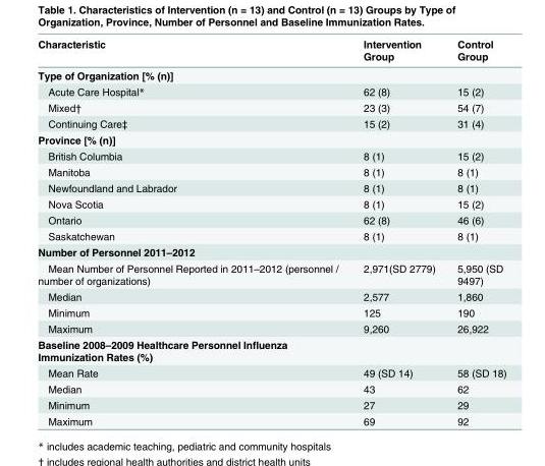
<table><thead><tr><td>Characteristic</td><td>Intervention Group</td><td>Control Group</td></tr></thead><tbody><tr><td colspan="3">Type of Organization [% (n)]</td></tr><tr><td>Acute Care Hospital*</td><td>62 (8)</td><td>15 (2)</td></tr><tr><td>Mixed†</td><td>23 (3)</td><td>54 (7)</td></tr><tr><td>Continuing Care‡</td><td>15 (2)</td><td>31 (4)</td></tr><tr><td colspan="3">Province [% (n)]</td></tr><tr><td>British Columbia</td><td>8 (1)</td><td>15 (2)</td></tr><tr><td>Manitoba</td><td>8 (1)</td><td>8 (1)</td></tr><tr><td>Newfoundland and Labrador</td><td>8 (1)</td><td>8 (1)</td></tr><tr><td>Nova Scotia</td><td>8 (1)</td><td>15 (2)</td></tr><tr><td>Ontario</td><td>62 (8)</td><td>46 (6)</td></tr><tr><td>Saskatchewan</td><td>8 (1)</td><td>8 (1)</td></tr><tr><td colspan="3">Number of Personnel 2011–2012</td></tr><tr><td>Mean Number of Personnel Reported in 2011–2012 (personnel / number of organizations)</td><td>2,971(SD 2779)</td><td>5,950 (SD 9497)</td></tr><tr><td>Median</td><td>2,577</td><td>1,860</td></tr><tr><td>Minimum</td><td>125</td><td>190</td></tr><tr><td>Maximum</td><td>9,260</td><td>26,922</td></tr><tr><td colspan="3">Baseline 2008–2009 Healthcare Personnel Influenza Immunization Rates (%)</td></tr><tr><td>Mean Rate</td><td>49 (SD 14)</td><td>58 (SD 18)</td></tr><tr><td>Median</td><td>43</td><td>62</td></tr><tr><td>Minimum</td><td>27</td><td>29</td></tr><tr><td>Maximum</td><td>69</td><td>92</td></tr></tbody></table>